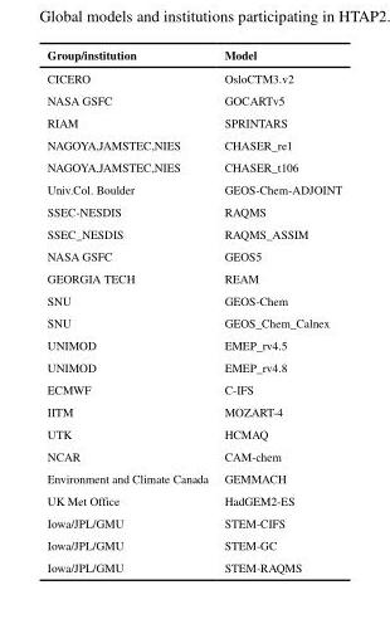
<table><thead><tr><td>Group/institution</td><td>Model</td></tr></thead><tbody><tr><td>CICERO</td><td>OsloCTM3.v2</td></tr><tr><td>NASA GSFC</td><td>GOCARTv5</td></tr><tr><td>RIAM</td><td>SPRINTARS</td></tr><tr><td>NAGOYA,JAMSTEC,NIES</td><td>CHASER_re1</td></tr><tr><td>NAGOYA,JAMSTEC,NIES</td><td>CHASER_t106</td></tr><tr><td>Univ.Col. Boulder</td><td>GEOS-Chem-ADJOINT</td></tr><tr><td>SSEC-NESDIS</td><td>RAQMS</td></tr><tr><td>SSEC_NESDIS</td><td>RAQMS_ASSIM</td></tr><tr><td>NASA GSFC</td><td>GEOS5</td></tr><tr><td>GEORGIA TECH</td><td>REAM</td></tr><tr><td>SNU</td><td>GEOS-Chem</td></tr><tr><td>SNU</td><td>GEOS_Chem_Calnex</td></tr><tr><td>UNIMOD</td><td>EMEP_rv4.5</td></tr><tr><td>UNIMOD</td><td>EMEP_rv4.8</td></tr><tr><td>ECMWF</td><td>C-IFS</td></tr><tr><td>IITM</td><td>MOZART-4</td></tr><tr><td>UTK</td><td>HCMAQ</td></tr><tr><td>NCAR</td><td>CAM-chem</td></tr><tr><td>Environment and Climate Canada</td><td>GEMMACH</td></tr><tr><td>UK Met Office</td><td>HadGEM2-ES</td></tr><tr><td>Iowa/JPL/GMU</td><td>STEM-CIFS</td></tr><tr><td>Iowa/JPL/GMU</td><td>STEM-GC</td></tr><tr><td>Iowa/JPL/GMU</td><td>STEM-RAQMS</td></tr></tbody></table>